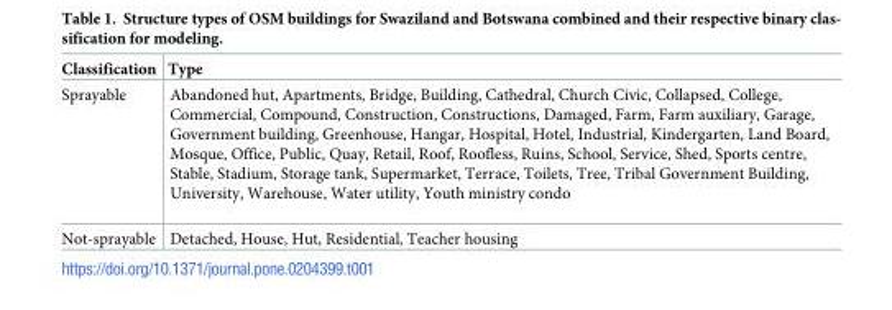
<table><thead><tr><td>Classification</td><td>Type</td></tr></thead><tbody><tr><td>Sprayable</td><td>Abandoned hut, Apartments, Bridge, Building, Cathedral, Church Civic, Collapsed, College, Commercial, Compound, Construction, Constructions, Damaged, Farm, Farm auxiliary, Garage, Government building, Greenhouse, Hangar, Hospital, Hotel, Industrial, Kindergarten, Land Board, Mosque, Office, Public, Quay, Retail, Roof, Roofless, Ruins, School, Service, Shed, Sports centre, Stable, Stadium, Storage tank, Supermarket, Terrace, Toilets, Tree, Tribal Government Building, University, Warehouse, Water utility, Youth ministry condo</td></tr><tr><td>Not-sprayable</td><td>Detached, House, Hut, Residential, Teacher housing</td></tr></tbody></table>